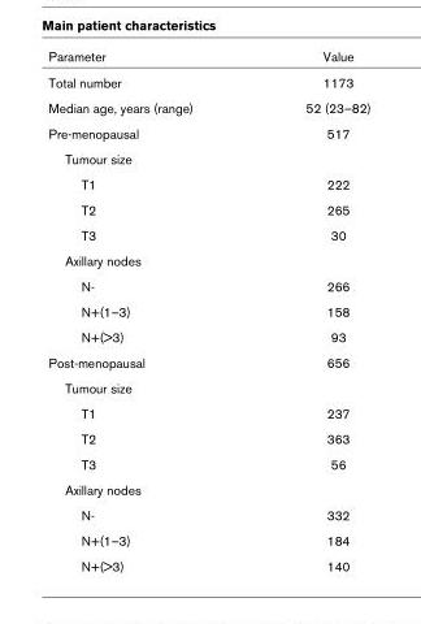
<table><thead><tr><td>Parameter</td><td>Value</td></tr></thead><tbody><tr><td>Total number</td><td>1173</td></tr><tr><td>Median age, years (range)</td><td>52 (23–82)</td></tr><tr><td>Pre-menopausal</td><td>517</td></tr><tr><td colspan="2">Tumour size</td></tr><tr><td>T1</td><td>222</td></tr><tr><td>T2</td><td>265</td></tr><tr><td>T3</td><td>30</td></tr><tr><td colspan="2">Axillary nodes</td></tr><tr><td>N-</td><td>266</td></tr><tr><td>N+(1–3)</td><td>158</td></tr><tr><td>N+(&gt;3)</td><td>93</td></tr><tr><td>Post-menopausal</td><td>656</td></tr><tr><td colspan="2">Tumour size</td></tr><tr><td>T1</td><td>237</td></tr><tr><td>T2</td><td>363</td></tr><tr><td>T3</td><td>56</td></tr><tr><td colspan="2">Axillary nodes</td></tr><tr><td>N-</td><td>332</td></tr><tr><td>N+(1–3)</td><td>184</td></tr><tr><td>N+(&gt;3)</td><td>140</td></tr></tbody></table>